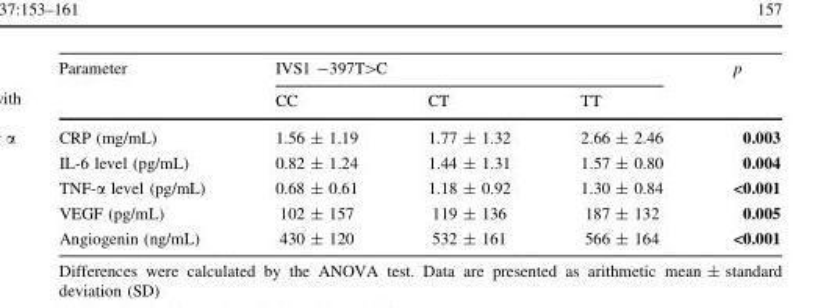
<table><thead><tr><td rowspan="2">Parameter</td><td colspan="3">IVS1 -397T&gt;C</td><td rowspan="2">p</td></tr><tr><td>CC</td><td>CT</td><td>TT</td></tr></thead><tbody><tr><td>CRP (mg/mL)</td><td>1.56 ± 1.19</td><td>1.77 ± 1.32</td><td>2.66 ± 2.46</td><td>0.003</td></tr><tr><td>IL-6 level (pg/mL)</td><td>0.82 ± 1.24</td><td>1.44 ± 1.31</td><td>1.57 ± 0.80</td><td>0.004</td></tr><tr><td>TNF-α level (pg/mL)</td><td>0.68 ± 0.61</td><td>1.18 ± 0.92</td><td>1.30 ± 0.84</td><td>&lt;0.001</td></tr><tr><td>VEGF (pg/mL)</td><td>102 ± 157</td><td>119 ± 136</td><td>187 ± 132</td><td>0.005</td></tr><tr><td>Angiogenin (ng/mL)</td><td>430 ± 120</td><td>532 ± 161</td><td>566 ± 164</td><td>&lt;0.001</td></tr></tbody></table>